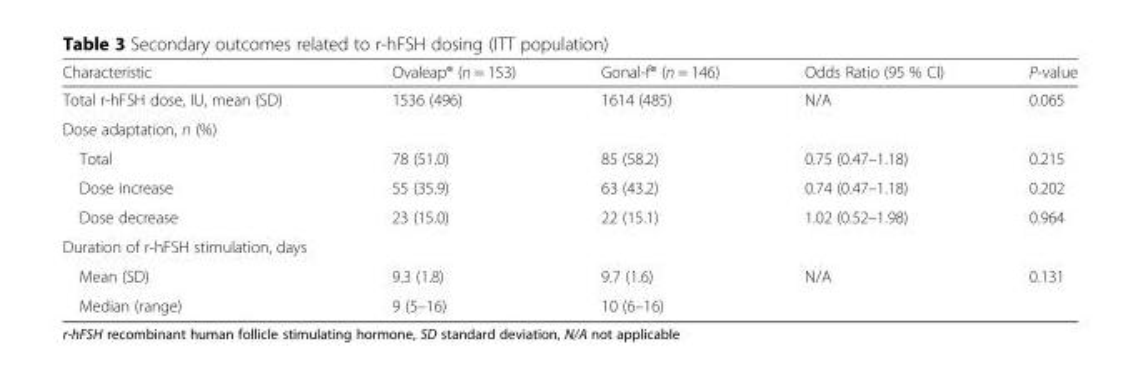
<table><thead><tr><td>Characteristic</td><td>Ovaleap® (n = 153)</td><td>Gonal-f® (n = 146)</td><td>Odds Ratio (95 % CI)</td><td>P-value</td></tr></thead><tbody><tr><td>Total r-hFSH dose, IU, mean (SD)</td><td>1536 (496)</td><td>1614 (485)</td><td>N/A</td><td>0.065</td></tr><tr><td colspan="5">Dose adaptation, n (%)</td></tr><tr><td>Total</td><td>78 (51.0)</td><td>85 (58.2)</td><td>0.75 (0.47–1.18)</td><td>0.215</td></tr><tr><td>Dose increase</td><td>55 (35.9)</td><td>63 (43.2)</td><td>0.74 (0.47–1.18)</td><td>0.202</td></tr><tr><td>Dose decrease</td><td>23 (15.0)</td><td>22 (15.1)</td><td>1.02 (0.52–1.98)</td><td>0.964</td></tr><tr><td colspan="5">Duration of r-hFSH stimulation, days</td></tr><tr><td>Mean (SD)</td><td>9.3 (1.8)</td><td>9.7 (1.6)</td><td>N/A</td><td>0.131</td></tr><tr><td>Median (range)</td><td>9 (5–16)</td><td>10 (6–16)</td><td></td><td></td></tr></tbody></table>